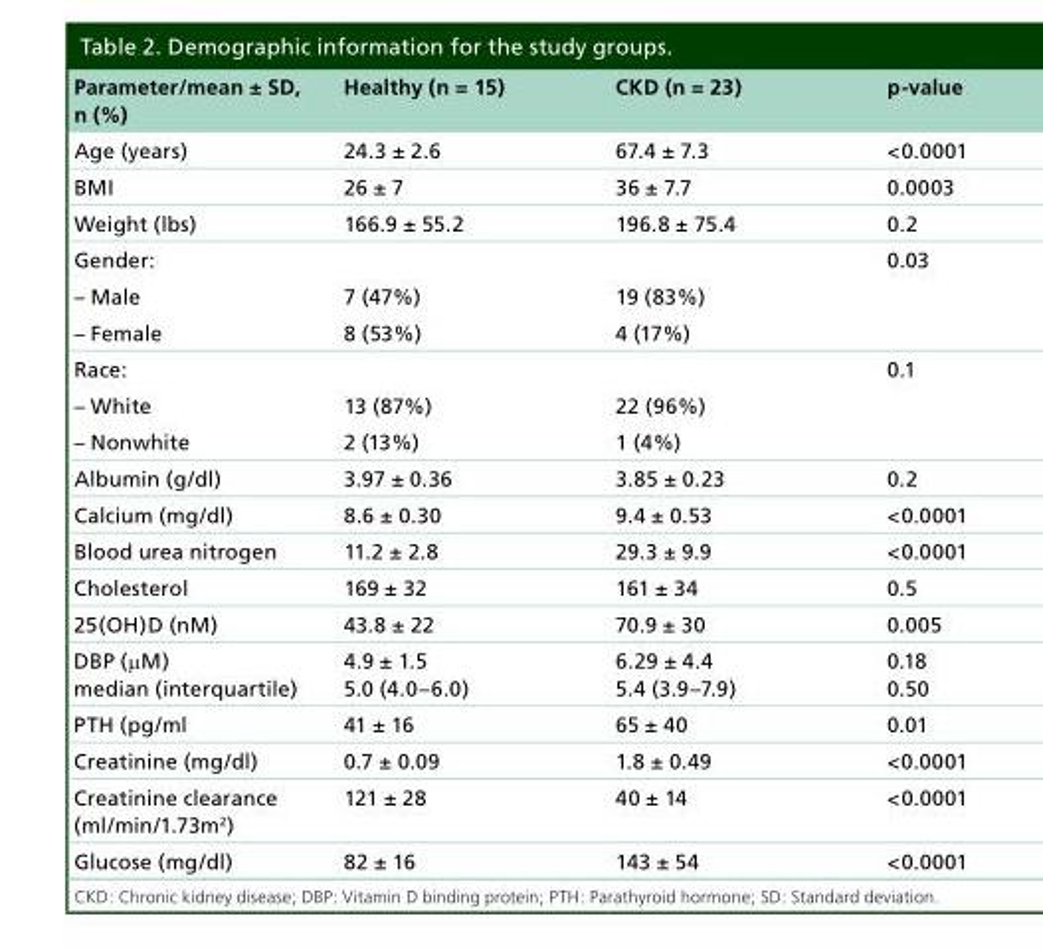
<table><thead><tr><td>Parameter/mean ± SD, n (%)</td><td>Healthy (n = 15)</td><td>CKD (n = 23)</td><td>p-value</td></tr></thead><tbody><tr><td>Age (years)</td><td>24.3 ± 2.6</td><td>67.4 ± 7.3</td><td>&lt;0.0001</td></tr><tr><td>BMI</td><td>26 ± 7</td><td>36 ± 7.7</td><td>0.0003</td></tr><tr><td>Weight (lbs)</td><td>166.9 ± 55.2</td><td>196.8 ± 75.4</td><td>0.2</td></tr><tr><td>Gender:</td><td></td><td></td><td>0.03</td></tr><tr><td>– Male</td><td>7 (47%)</td><td>19 (83%)</td><td></td></tr><tr><td>– Female</td><td>8 (53%)</td><td>4 (17%)</td><td></td></tr><tr><td>Race:</td><td></td><td></td><td>0.1</td></tr><tr><td>– White</td><td>13 (87%)</td><td>22 (96%)</td><td></td></tr><tr><td>– Nonwhite</td><td>2 (13%)</td><td>1 (4%)</td><td></td></tr><tr><td>Albumin (g/dl)</td><td>3.97 ± 0.36</td><td>3.85 ± 0.23</td><td>0.2</td></tr><tr><td>Calcium (mg/dl)</td><td>8.6 ± 0.30</td><td>9.4 ± 0.53</td><td>&lt;0.0001</td></tr><tr><td>Blood urea nitrogen</td><td>11.2 ± 2.8</td><td>29.3 ± 9.9</td><td>&lt;0.0001</td></tr><tr><td>Cholesterol</td><td>169 ± 32</td><td>161 ± 34</td><td>0.5</td></tr><tr><td>25(OH)D (nM)</td><td>43.8 ± 22</td><td>70.9 ± 30</td><td>0.005</td></tr><tr><td>DBP (μM) median (interquartile)</td><td>4.9 ± 1.5 5.0 (4.0–6.0)</td><td>6.29 ± 4.4 5.4 (3.9–7.9)</td><td>0.18 0.50</td></tr><tr><td>PTH (pg/ml</td><td>41 ± 16</td><td>65 ± 40</td><td>0.01</td></tr><tr><td>Creatinine (mg/dl)</td><td>0.7 ± 0.09</td><td>1.8 ± 0.49</td><td>&lt;0.0001</td></tr><tr><td>Creatinine clearance (ml/min/1.73m<sup>2</sup>)</td><td>121 ± 28</td><td>40 ± 14</td><td>&lt;0.0001</td></tr><tr><td>Glucose (mg/dl)</td><td>82 ± 16</td><td>143 ± 54</td><td>&lt;0.0001</td></tr></tbody></table>